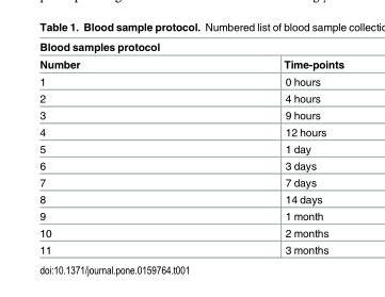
<table><thead><tr><td colspan="2">Blood samples protocol</td></tr><tr><td>Number</td><td>Time-points</td></tr></thead><tbody><tr><td>1</td><td>0 hours</td></tr><tr><td>2</td><td>4 hours</td></tr><tr><td>3</td><td>9 hours</td></tr><tr><td>4</td><td>12 hours</td></tr><tr><td>5</td><td>1 day</td></tr><tr><td>6</td><td>3 days</td></tr><tr><td>7</td><td>7 days</td></tr><tr><td>8</td><td>14 days</td></tr><tr><td>9</td><td>1 month</td></tr><tr><td>10</td><td>2 months</td></tr><tr><td>11</td><td>3 months</td></tr></tbody></table>